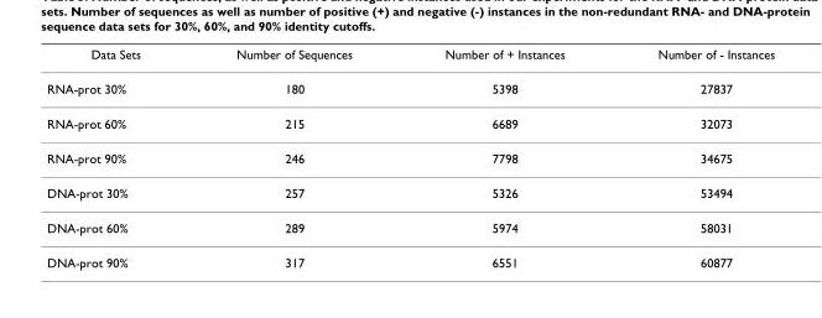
<table><thead><tr><td>Data Sets</td><td>Number of Sequences</td><td>Number of + Instances</td><td>Number of - Instances</td></tr></thead><tbody><tr><td>RNA-prot 30%</td><td>180</td><td>5398</td><td>27837</td></tr><tr><td>RNA-prot 60%</td><td>215</td><td>6689</td><td>32073</td></tr><tr><td>RNA-prot 90%</td><td>246</td><td>7798</td><td>34675</td></tr><tr><td>DNA-prot 30%</td><td>257</td><td>5326</td><td>53494</td></tr><tr><td>DNA-prot 60%</td><td>289</td><td>5974</td><td>58031</td></tr><tr><td>DNA-prot 90%</td><td>317</td><td>6551</td><td>60877</td></tr></tbody></table>